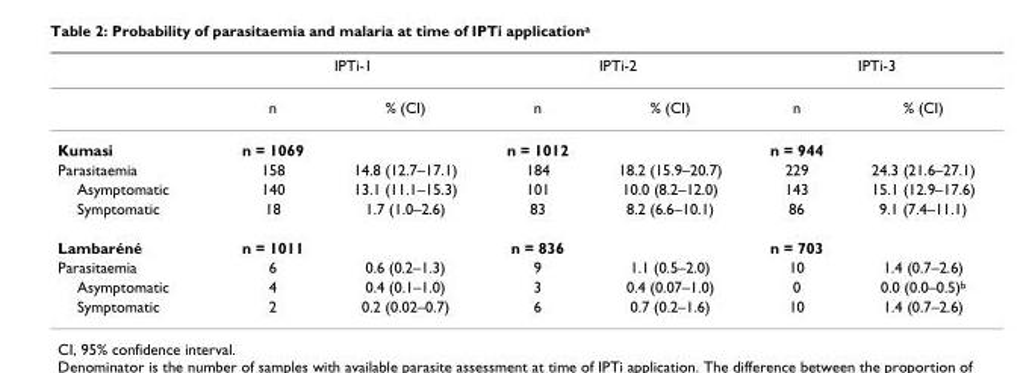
<table><thead><tr><td rowspan="2"></td><td colspan="2">IPTi-1</td><td colspan="2">IPTi-2</td><td colspan="2">IPTi-3</td></tr><tr><td>n</td><td>% (CI)</td><td>n</td><td>% (CI)</td><td>n</td><td>% (CI)</td></tr></thead><tbody><tr><td>Kumasi</td><td>n = 1069</td><td></td><td>n = 1012</td><td></td><td>n = 944</td><td></td></tr><tr><td>Parasitaemia</td><td>158</td><td>14.8 (12.7–17.1)</td><td>184</td><td>18.2 (15.9–20.7)</td><td>229</td><td>24.3 (21.6–27.1)</td></tr><tr><td>Asymptomatic</td><td>140</td><td>13.1 (11.1–15.3)</td><td>101</td><td>10.0 (8.2–12.0)</td><td>143</td><td>15.1 (12.9–17.6)</td></tr><tr><td>Symptomatic</td><td>18</td><td>1.7 (1.0–2.6)</td><td>83</td><td>8.2 (6.6–10.1)</td><td>86</td><td>9.1 (7.4–11.1)</td></tr><tr><td>Lambaréné</td><td>n = 1011</td><td></td><td>n = 836</td><td></td><td>n = 703</td><td></td></tr><tr><td>Parasitaemia</td><td>6</td><td>0.6 (0.2–1.3)</td><td>9</td><td>1.1 (0.5–2.0)</td><td>10</td><td>1.4 (0.7–2.6)</td></tr><tr><td>Asymptomatic</td><td>4</td><td>0.4 (0.1–1.0)</td><td>3</td><td>0.4 (0.07–1.0)</td><td>0</td><td>0.0 (0.0–0.5)<sup>b</sup></td></tr><tr><td>Symptomatic</td><td>2</td><td>0.2 (0.02–0.7)</td><td>6</td><td>0.7 (0.2–1.6)</td><td>10</td><td>1.4 (0.7–2.6)</td></tr></tbody></table>